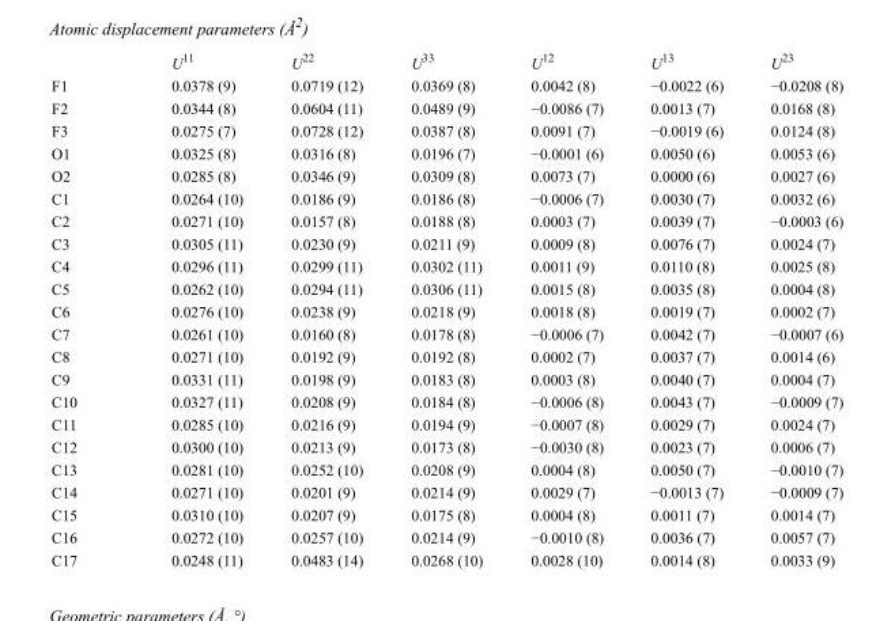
<table><thead><tr><td></td><td>U<sup>11</sup></td><td>U<sup>22</sup></td><td>U<sup>33</sup></td><td>U<sup>12</sup></td><td>U<sup>13</sup></td><td>U<sup>23</sup></td></tr></thead><tbody><tr><td>F1</td><td>0.0378 (9)</td><td>0.0719 (12)</td><td>0.0369 (8)</td><td>0.0042 (8)</td><td>−0.0022 (6)</td><td>−0.0208 (8)</td></tr><tr><td>F2</td><td>0.0344 (8)</td><td>0.0604 (11)</td><td>0.0489 (9)</td><td>−0.0086 (7)</td><td>0.0013 (7)</td><td>0.0168 (8)</td></tr><tr><td>F3</td><td>0.0275 (7)</td><td>0.0728 (12)</td><td>0.0387 (8)</td><td>0.0091 (7)</td><td>−0.0019 (6)</td><td>0.0124 (8)</td></tr><tr><td>O1</td><td>0.0325 (8)</td><td>0.0316 (8)</td><td>0.0196 (7)</td><td>−0.0001 (6)</td><td>0.0050 (6)</td><td>0.0053 (6)</td></tr><tr><td>O2</td><td>0.0285 (8)</td><td>0.0346 (9)</td><td>0.0309 (8)</td><td>0.0073 (7)</td><td>0.0000 (6)</td><td>0.0027 (6)</td></tr><tr><td>C1</td><td>0.0264 (10)</td><td>0.0186 (9)</td><td>0.0186 (8)</td><td>−0.0006 (7)</td><td>0.0030 (7)</td><td>0.0032 (6)</td></tr><tr><td>C2</td><td>0.0271 (10)</td><td>0.0157 (8)</td><td>0.0188 (8)</td><td>0.0003 (7)</td><td>0.0039 (7)</td><td>−0.0003 (6)</td></tr><tr><td>C3</td><td>0.0305 (11)</td><td>0.0230 (9)</td><td>0.0211 (9)</td><td>0.0009 (8)</td><td>0.0076 (7)</td><td>0.0024 (7)</td></tr><tr><td>C4</td><td>0.0296 (11)</td><td>0.0299 (11)</td><td>0.0302 (11)</td><td>0.0011 (9)</td><td>0.0110 (8)</td><td>0.0025 (8)</td></tr><tr><td>C5</td><td>0.0262 (10)</td><td>0.0294 (11)</td><td>0.0306 (11)</td><td>0.0015 (8)</td><td>0.0035 (8)</td><td>0.0004 (8)</td></tr><tr><td>C6</td><td>0.0276 (10)</td><td>0.0238 (9)</td><td>0.0218 (9)</td><td>0.0018 (8)</td><td>0.0019 (7)</td><td>0.0002 (7)</td></tr><tr><td>C7</td><td>0.0261 (10)</td><td>0.0160 (8)</td><td>0.0178 (8)</td><td>−0.0006 (7)</td><td>0.0042 (7)</td><td>−0.0007 (6)</td></tr><tr><td>C8</td><td>0.0271 (10)</td><td>0.0192 (9)</td><td>0.0192 (8)</td><td>0.0002 (7)</td><td>0.0037 (7)</td><td>0.0014 (6)</td></tr><tr><td>C9</td><td>0.0331 (11)</td><td>0.0198 (9)</td><td>0.0183 (8)</td><td>0.0003 (8)</td><td>0.0040 (7)</td><td>0.0004 (7)</td></tr><tr><td>C10</td><td>0.0327 (11)</td><td>0.0208 (9)</td><td>0.0184 (8)</td><td>−0.0006 (8)</td><td>0.0043 (7)</td><td>−0.0009 (7)</td></tr><tr><td>C11</td><td>0.0285 (10)</td><td>0.0216 (9)</td><td>0.0194 (9)</td><td>−0.0007 (8)</td><td>0.0029 (7)</td><td>0.0024 (7)</td></tr><tr><td>C12</td><td>0.0300 (10)</td><td>0.0213 (9)</td><td>0.0173 (8)</td><td>−0.0030 (8)</td><td>0.0023 (7)</td><td>0.0006 (7)</td></tr><tr><td>C13</td><td>0.0281 (10)</td><td>0.0252 (10)</td><td>0.0208 (9)</td><td>0.0004 (8)</td><td>0.0050 (7)</td><td>−0.0010 (7)</td></tr><tr><td>C14</td><td>0.0271 (10)</td><td>0.0201 (9)</td><td>0.0214 (9)</td><td>0.0029 (7)</td><td>−0.0013 (7)</td><td>−0.0009 (7)</td></tr><tr><td>C15</td><td>0.0310 (10)</td><td>0.0207 (9)</td><td>0.0175 (8)</td><td>0.0004 (8)</td><td>0.0011 (7)</td><td>0.0014 (7)</td></tr><tr><td>C16</td><td>0.0272 (10)</td><td>0.0257 (10)</td><td>0.0214 (9)</td><td>−0.0010 (8)</td><td>0.0036 (7)</td><td>0.0057 (7)</td></tr><tr><td>C17</td><td>0.0248 (11)</td><td>0.0483 (14)</td><td>0.0268 (10)</td><td>0.0028 (10)</td><td>0.0014 (8)</td><td>0.0033 (9)</td></tr></tbody></table>